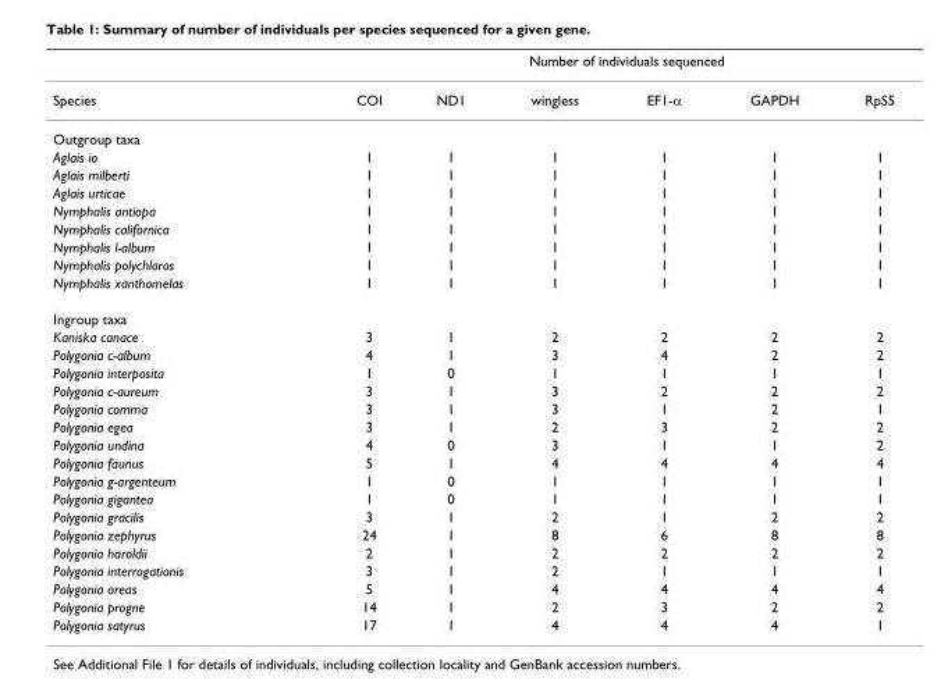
<table><thead><tr><td rowspan="2">Species</td><td colspan="6">Number of individuals sequenced</td></tr><tr><td>COI</td><td>ND1</td><td>wingless</td><td>EF1-α</td><td>GAPDH</td><td>RpS5</td></tr></thead><tbody><tr><td colspan="7">Outgroup taxa</td></tr><tr><td>Aglais io</td><td>1</td><td>1</td><td>1</td><td>1</td><td>1</td><td>1</td></tr><tr><td>Aglais milberti</td><td>1</td><td>1</td><td>1</td><td>1</td><td>1</td><td>1</td></tr><tr><td>Aglais urticae</td><td>1</td><td>1</td><td>1</td><td>1</td><td>1</td><td>1</td></tr><tr><td>Nymphalis antiopa</td><td>1</td><td>1</td><td>1</td><td>1</td><td>1</td><td>1</td></tr><tr><td>Nymphalis californica</td><td>1</td><td>1</td><td>1</td><td>1</td><td>1</td><td>1</td></tr><tr><td>Nymphalis l-album</td><td>1</td><td>1</td><td>1</td><td>1</td><td>1</td><td>1</td></tr><tr><td>Nymphalis polychloros</td><td>1</td><td>1</td><td>1</td><td>1</td><td>1</td><td>1</td></tr><tr><td>Nymphalis xanthomelas</td><td>1</td><td>1</td><td>1</td><td>1</td><td>1</td><td>1</td></tr><tr><td colspan="7">Ingroup taxa</td></tr><tr><td>Kaniska canace</td><td>3</td><td>1</td><td>2</td><td>2</td><td>2</td><td>2</td></tr><tr><td>Polygonia c-album</td><td>4</td><td>1</td><td>3</td><td>4</td><td>2</td><td>2</td></tr><tr><td>Polygonia interposita</td><td>1</td><td>0</td><td>1</td><td>1</td><td>1</td><td>1</td></tr><tr><td>Polygonia c-aureum</td><td>3</td><td>1</td><td>3</td><td>2</td><td>2</td><td>2</td></tr><tr><td>Polygonia comma</td><td>3</td><td>1</td><td>3</td><td>1</td><td>2</td><td>1</td></tr><tr><td>Polygonia egea</td><td>3</td><td>1</td><td>2</td><td>3</td><td>2</td><td>2</td></tr><tr><td>Polygonia undina</td><td>4</td><td>0</td><td>3</td><td>1</td><td>1</td><td>2</td></tr><tr><td>Polygonia faunus</td><td>5</td><td>1</td><td>4</td><td>4</td><td>4</td><td>4</td></tr><tr><td>Polygonia g-argenteum</td><td>1</td><td>0</td><td>1</td><td>1</td><td>1</td><td>1</td></tr><tr><td>Polygonia gigantea</td><td>1</td><td>0</td><td>1</td><td>1</td><td>1</td><td>1</td></tr><tr><td>Polygonia gracilis</td><td>3</td><td>1</td><td>2</td><td>1</td><td>2</td><td>2</td></tr><tr><td>Polygonia zephyrus</td><td>24</td><td>1</td><td>8</td><td>6</td><td>8</td><td>8</td></tr><tr><td>Polygonia haroldii</td><td>2</td><td>1</td><td>2</td><td>2</td><td>2</td><td>2</td></tr><tr><td>Polygonia interrogationis</td><td>3</td><td>1</td><td>2</td><td>1</td><td>1</td><td>1</td></tr><tr><td>Polygonia oreas</td><td>5</td><td>1</td><td>4</td><td>4</td><td>4</td><td>4</td></tr><tr><td>Polygonia progne</td><td>14</td><td>1</td><td>2</td><td>3</td><td>2</td><td>2</td></tr><tr><td>Polygonia satyrus</td><td>17</td><td>1</td><td>4</td><td>4</td><td>4</td><td>1</td></tr></tbody></table>